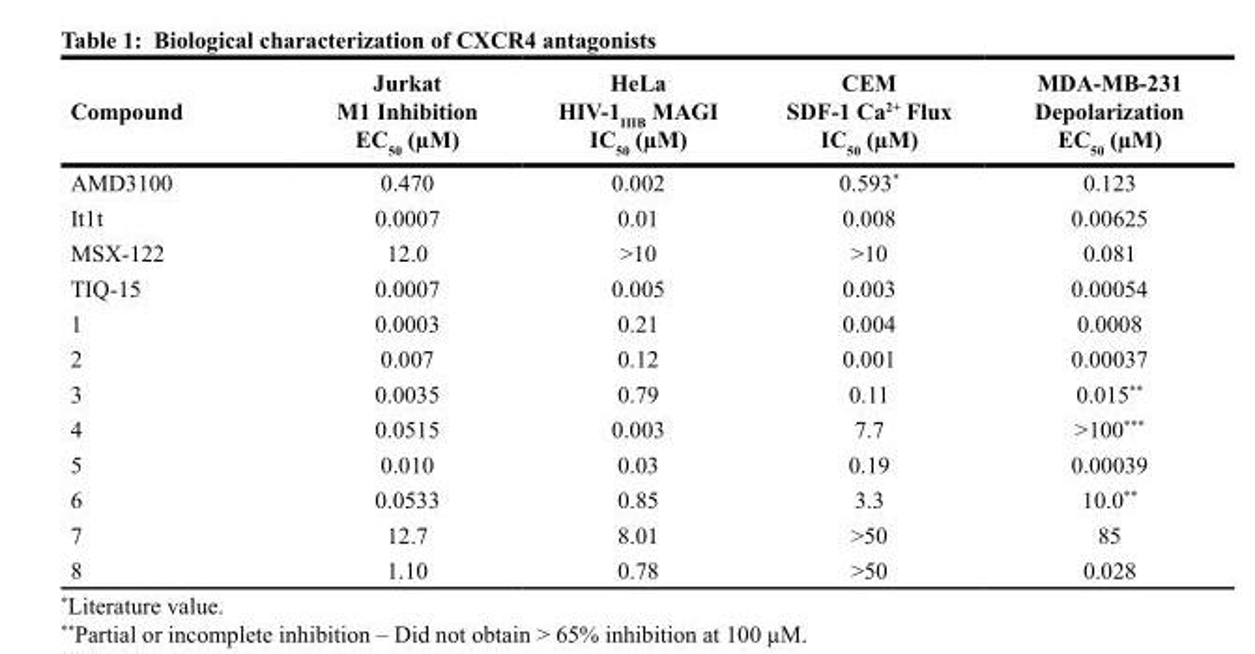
<table><thead><tr><td>Compound</td><td>Jurkat M1 Inhibition EC<sub>50</sub> (µM)</td><td>HeLa HIV-1<sub>IIIB</sub> MAGI IC<sub>50</sub> (µM)</td><td>CEM SDF-1 Ca<sup>2+</sup> Flux IC<sub>50</sub> (µM)</td><td>MDA-MB-231 Depolarization EC<sub>50</sub> (µM)</td></tr></thead><tbody><tr><td>AMD3100</td><td>0.470</td><td>0.002</td><td>0.593*</td><td>0.123</td></tr><tr><td>It1t</td><td>0.0007</td><td>0.01</td><td>0.008</td><td>0.00625</td></tr><tr><td>MSX-122</td><td>12.0</td><td>&gt;10</td><td>&gt;10</td><td>0.081</td></tr><tr><td>TIQ-15</td><td>0.0007</td><td>0.005</td><td>0.003</td><td>0.00054</td></tr><tr><td>1</td><td>0.0003</td><td>0.21</td><td>0.004</td><td>0.0008</td></tr><tr><td>2</td><td>0.007</td><td>0.12</td><td>0.001</td><td>0.00037</td></tr><tr><td>3</td><td>0.0035</td><td>0.79</td><td>0.11</td><td>0.015**</td></tr><tr><td>4</td><td>0.0515</td><td>0.003</td><td>7.7</td><td>&gt;100***</td></tr><tr><td>5</td><td>0.010</td><td>0.03</td><td>0.19</td><td>0.00039</td></tr><tr><td>6</td><td>0.0533</td><td>0.85</td><td>3.3</td><td>10.0**</td></tr><tr><td>7</td><td>12.7</td><td>8.01</td><td>&gt;50</td><td>85</td></tr><tr><td>8</td><td>1.10</td><td>0.78</td><td>&gt;50</td><td>0.028</td></tr></tbody></table>